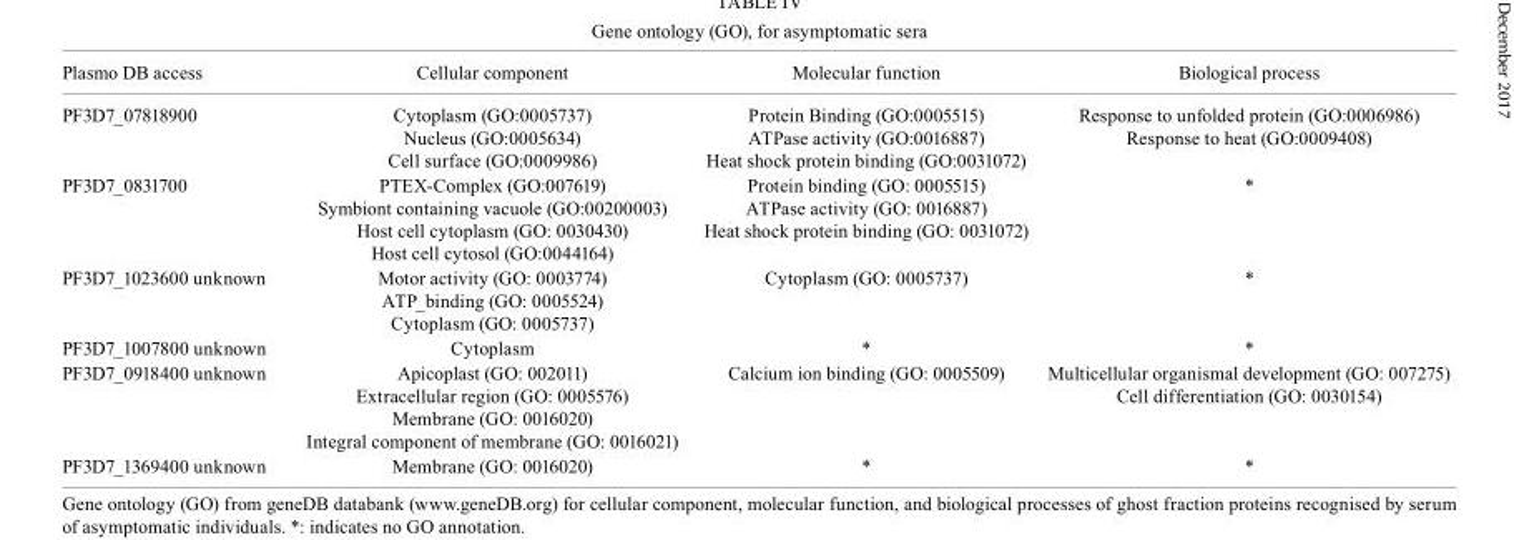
<table><thead><tr><td>Plasmo DB access</td><td>Cellular component</td><td>Molecular function</td><td>Biological process</td></tr></thead><tbody><tr><td>PF3D7_07818900</td><td>Cytoplasm (GO:0005737) Nucleus (GO:0005634) Cell surface (GO:0009986)</td><td>Protein Binding (GO:0005515) ATPase activity (GO:0016887) Heat shock protein binding (GO:0031072)</td><td>Response to unfolded protein (GO:0006986) Response to heat (GO:0009408)</td></tr><tr><td>PF3D7_0831700</td><td>PTEX-Complex (GO:007619) Symbiont containing vacuole (GO:00200003) Host cell cytoplasm (GO: 0030430) Host cell cytosol (GO:0044164)</td><td>Protein binding (GO: 0005515) ATPase activity (GO: 0016887) Heat shock protein binding (GO: 0031072)</td><td>*</td></tr><tr><td>PF3D7_1023600 unknown</td><td>Motor activity (GO: 0003774) ATP_binding (GO: 0005524) Cytoplasm (GO: 0005737)</td><td>Cytoplasm (GO: 0005737)</td><td>*</td></tr><tr><td>PF3D7_1007800 unknown</td><td>Cytoplasm</td><td>*</td><td>*</td></tr><tr><td>PF3D7_0918400 unknown</td><td>Apicoplast (GO: 002011) Extracellular region (GO: 0005576) Membrane (GO: 0016020) Integral component of membrane (GO: 0016021)</td><td>Calcium ion binding (GO: 0005509)</td><td>Multicellular organismal development (GO: 007275) Cell differentiation (GO: 0030154)</td></tr><tr><td>PF3D7_1369400 unknown</td><td>Membrane (GO: 0016020)</td><td>*</td><td>*</td></tr></tbody></table>